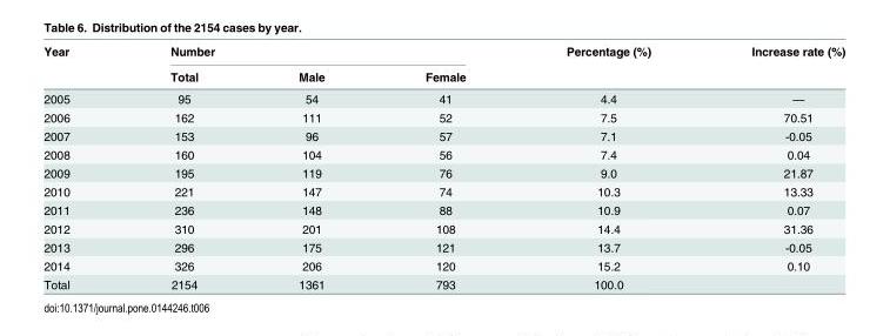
<table><thead><tr><td rowspan="2">Year</td><td colspan="3">Number</td><td rowspan="2">Percentage (%)</td><td rowspan="2">Increase rate (%)</td></tr><tr><td>Total</td><td>Male</td><td>Female</td></tr></thead><tbody><tr><td>2005</td><td>95</td><td>54</td><td>41</td><td>4.4</td><td>—</td></tr><tr><td>2006</td><td>162</td><td>111</td><td>52</td><td>7.5</td><td>70.51</td></tr><tr><td>2007</td><td>153</td><td>96</td><td>57</td><td>7.1</td><td>-0.05</td></tr><tr><td>2008</td><td>160</td><td>104</td><td>56</td><td>7.4</td><td>0.04</td></tr><tr><td>2009</td><td>195</td><td>119</td><td>76</td><td>9.0</td><td>21.87</td></tr><tr><td>2010</td><td>221</td><td>147</td><td>74</td><td>10.3</td><td>13.33</td></tr><tr><td>2011</td><td>236</td><td>148</td><td>88</td><td>10.9</td><td>0.07</td></tr><tr><td>2012</td><td>310</td><td>201</td><td>108</td><td>14.4</td><td>31.36</td></tr><tr><td>2013</td><td>296</td><td>175</td><td>121</td><td>13.7</td><td>-0.05</td></tr><tr><td>2014</td><td>326</td><td>206</td><td>120</td><td>15.2</td><td>0.10</td></tr><tr><td>Total</td><td>2154</td><td>1361</td><td>793</td><td>100.0</td><td></td></tr></tbody></table>